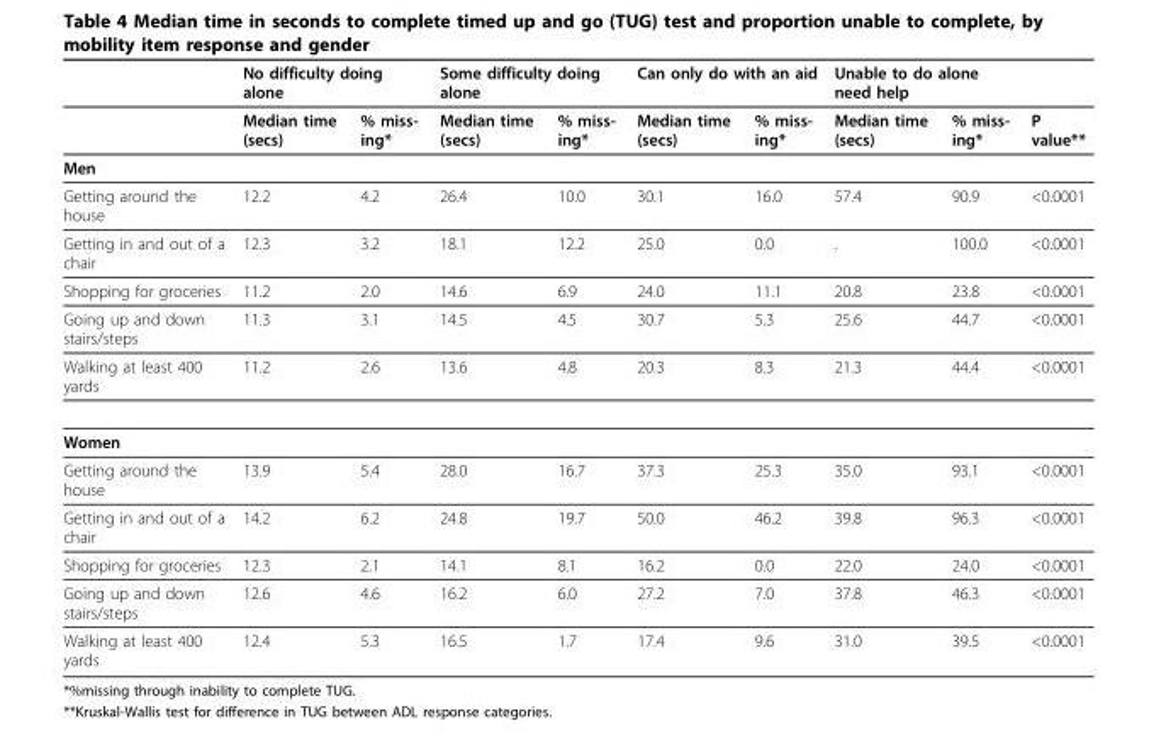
<table><thead><tr><td rowspan="2"></td><td colspan="2">No difficulty doing alone</td><td colspan="2">Some difficulty doing alone</td><td colspan="2">Can only do with an aid</td><td colspan="2">Unable to do alone need help</td><td rowspan="2">P value**</td></tr><tr><td>Median time (secs)</td><td>% miss- ing*</td><td>Median time (secs)</td><td>% miss- ing*</td><td>Median time (secs)</td><td>% miss- ing*</td><td>Median time (secs)</td><td>% miss- ing*</td></tr></thead><tbody><tr><td colspan="10">Men</td></tr><tr><td>Getting around the house</td><td>12.2</td><td>4.2</td><td>26.4</td><td>10.0</td><td>30.1</td><td>16.0</td><td>57.4</td><td>90.9</td><td>&lt;0.0001</td></tr><tr><td>Getting in and out of a chair</td><td>12.3</td><td>3.2</td><td>18.1</td><td>12.2</td><td>25.0</td><td>0.0</td><td>.</td><td>100.0</td><td>&lt;0.0001</td></tr><tr><td>Shopping for groceries</td><td>11.2</td><td>2.0</td><td>14.6</td><td>6.9</td><td>24.0</td><td>11.1</td><td>20.8</td><td>23.8</td><td>&lt;0.0001</td></tr><tr><td>Going up and down stairs/steps</td><td>11.3</td><td>3.1</td><td>14.5</td><td>4.5</td><td>30.7</td><td>5.3</td><td>25.6</td><td>44.7</td><td>&lt;0.0001</td></tr><tr><td>Walking at least 400 yards</td><td>11.2</td><td>2.6</td><td>13.6</td><td>4.8</td><td>20.3</td><td>8.3</td><td>21.3</td><td>44.4</td><td>&lt;0.0001</td></tr><tr><td colspan="10">Women</td></tr><tr><td>Getting around the house</td><td>13.9</td><td>5.4</td><td>28.0</td><td>16.7</td><td>37.3</td><td>25.3</td><td>35.0</td><td>93.1</td><td>&lt;0.0001</td></tr><tr><td>Getting in and out of a chair</td><td>14.2</td><td>6.2</td><td>24.8</td><td>19.7</td><td>50.0</td><td>46.2</td><td>39.8</td><td>96.3</td><td>&lt;0.0001</td></tr><tr><td>Shopping for groceries</td><td>12.3</td><td>2.1</td><td>14.1</td><td>8.1</td><td>16.2</td><td>0.0</td><td>22.0</td><td>24.0</td><td>&lt;0.0001</td></tr><tr><td>Going up and down stairs/steps</td><td>12.6</td><td>4.6</td><td>16.2</td><td>6.0</td><td>27.2</td><td>7.0</td><td>37.8</td><td>46.3</td><td>&lt;0.0001</td></tr><tr><td>Walking at least 400 yards</td><td>12.4</td><td>5.3</td><td>16.5</td><td>1.7</td><td>17.4</td><td>9.6</td><td>31.0</td><td>39.5</td><td>&lt;0.0001</td></tr></tbody></table>